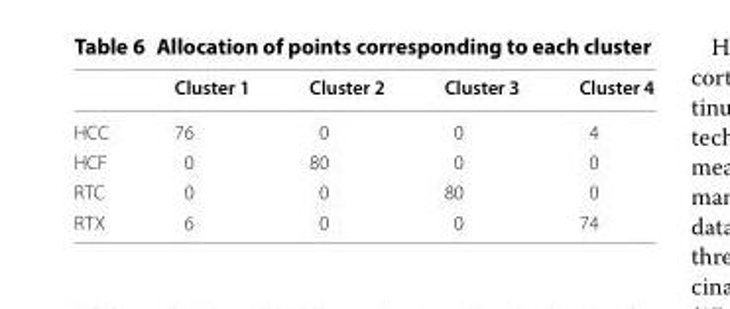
<table><thead><tr><td></td><td>Cluster 1</td><td>Cluster 2</td><td>Cluster 3</td><td>Cluster 4</td></tr></thead><tbody><tr><td>HCC</td><td>76</td><td>0</td><td>0</td><td>4</td></tr><tr><td>HCF</td><td>0</td><td>80</td><td>0</td><td>0</td></tr><tr><td>RTC</td><td>0</td><td>0</td><td>80</td><td>0</td></tr><tr><td>RTX</td><td>6</td><td>0</td><td>0</td><td>74</td></tr></tbody></table>